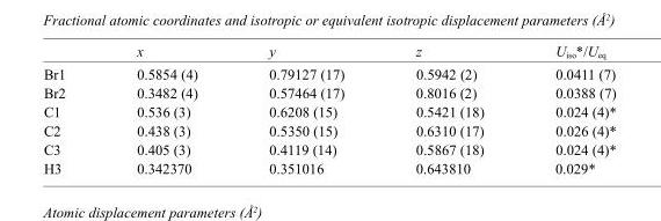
<table><thead><tr><td></td><td>x</td><td>y</td><td>z</td><td>U<sub>iso</sub>*/U<sub>eq</sub></td></tr></thead><tbody><tr><td>Br1</td><td>0.5854 (4)</td><td>0.79127 (17)</td><td>0.5942 (2)</td><td>0.0411 (7)</td></tr><tr><td>Br2</td><td>0.3482 (4)</td><td>0.57464 (17)</td><td>0.8016 (2)</td><td>0.0388 (7)</td></tr><tr><td>C1</td><td>0.536 (3)</td><td>0.6208 (15)</td><td>0.5421 (18)</td><td>0.024 (4)*</td></tr><tr><td>C2</td><td>0.438 (3)</td><td>0.5350 (15)</td><td>0.6310 (17)</td><td>0.026 (4)*</td></tr><tr><td>C3</td><td>0.405 (3)</td><td>0.4119 (14)</td><td>0.5867 (18)</td><td>0.024 (4)*</td></tr><tr><td>H3</td><td>0.342370</td><td>0.351016</td><td>0.643810</td><td>0.029*</td></tr></tbody></table>